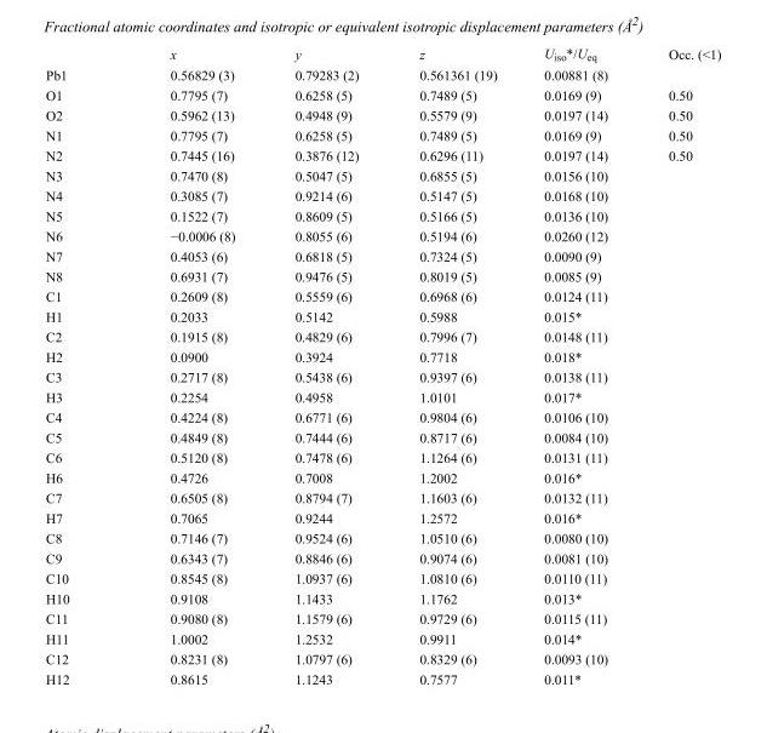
<table><thead><tr><td></td><td>x</td><td>y</td><td>z</td><td>U<sub>iso</sub>*/U<sub>eq</sub></td><td>Occ. (&lt;1)</td></tr></thead><tbody><tr><td>Pb1</td><td>0.56829 (3)</td><td>0.79283 (2)</td><td>0.561361 (19)</td><td>0.00881 (8)</td><td></td></tr><tr><td>O1</td><td>0.7795 (7)</td><td>0.6258 (5)</td><td>0.7489 (5)</td><td>0.0169 (9)</td><td>0.50</td></tr><tr><td>O2</td><td>0.5962 (13)</td><td>0.4948 (9)</td><td>0.5579 (9)</td><td>0.0197 (14)</td><td>0.50</td></tr><tr><td>N1</td><td>0.7795 (7)</td><td>0.6258 (5)</td><td>0.7489 (5)</td><td>0.0169 (9)</td><td>0.50</td></tr><tr><td>N2</td><td>0.7445 (16)</td><td>0.3876 (12)</td><td>0.6296 (11)</td><td>0.0197 (14)</td><td>0.50</td></tr><tr><td>N3</td><td>0.7470 (8)</td><td>0.5047 (5)</td><td>0.6855 (5)</td><td>0.0156 (10)</td><td></td></tr><tr><td>N4</td><td>0.3085 (7)</td><td>0.9214 (6)</td><td>0.5147 (5)</td><td>0.0168 (10)</td><td></td></tr><tr><td>N5</td><td>0.1522 (7)</td><td>0.8609 (5)</td><td>0.5166 (5)</td><td>0.0136 (10)</td><td></td></tr><tr><td>N6</td><td>−0.0006 (8)</td><td>0.8055 (6)</td><td>0.5194 (6)</td><td>0.0260 (12)</td><td></td></tr><tr><td>N7</td><td>0.4053 (6)</td><td>0.6818 (5)</td><td>0.7324 (5)</td><td>0.0090 (9)</td><td></td></tr><tr><td>N8</td><td>0.6931 (7)</td><td>0.9476 (5)</td><td>0.8019 (5)</td><td>0.0085 (9)</td><td></td></tr><tr><td>C1</td><td>0.2609 (8)</td><td>0.5559 (6)</td><td>0.6968 (6)</td><td>0.0124 (11)</td><td></td></tr><tr><td>H1</td><td>0.2033</td><td>0.5142</td><td>0.5988</td><td>0.015*</td><td></td></tr><tr><td>C2</td><td>0.1915 (8)</td><td>0.4829 (6)</td><td>0.7996 (7)</td><td>0.0148 (11)</td><td></td></tr><tr><td>H2</td><td>0.0900</td><td>0.3924</td><td>0.7718</td><td>0.018*</td><td></td></tr><tr><td>C3</td><td>0.2717 (8)</td><td>0.5438 (6)</td><td>0.9397 (6)</td><td>0.0138 (11)</td><td></td></tr><tr><td>H3</td><td>0.2254</td><td>0.4958</td><td>1.0101</td><td>0.017*</td><td></td></tr><tr><td>C4</td><td>0.4224 (8)</td><td>0.6771 (6)</td><td>0.9804 (6)</td><td>0.0106 (10)</td><td></td></tr><tr><td>C5</td><td>0.4849 (8)</td><td>0.7444 (6)</td><td>0.8717 (6)</td><td>0.0084 (10)</td><td></td></tr><tr><td>C6</td><td>0.5120 (8)</td><td>0.7478 (6)</td><td>1.1264 (6)</td><td>0.0131 (11)</td><td></td></tr><tr><td>H6</td><td>0.4726</td><td>0.7008</td><td>1.2002</td><td>0.016*</td><td></td></tr><tr><td>C7</td><td>0.6505 (8)</td><td>0.8794 (7)</td><td>1.1603 (6)</td><td>0.0132 (11)</td><td></td></tr><tr><td>H7</td><td>0.7065</td><td>0.9244</td><td>1.2572</td><td>0.016*</td><td></td></tr><tr><td>C8</td><td>0.7146 (7)</td><td>0.9524 (6)</td><td>1.0510 (6)</td><td>0.0080 (10)</td><td></td></tr><tr><td>C9</td><td>0.6343 (7)</td><td>0.8846 (6)</td><td>0.9074 (6)</td><td>0.0081 (10)</td><td></td></tr><tr><td>C10</td><td>0.8545 (8)</td><td>1.0937 (6)</td><td>1.0810 (6)</td><td>0.0110 (11)</td><td></td></tr><tr><td>H10</td><td>0.9108</td><td>1.1433</td><td>1.1762</td><td>0.013*</td><td></td></tr><tr><td>C11</td><td>0.9080 (8)</td><td>1.1579 (6)</td><td>0.9729 (6)</td><td>0.0115 (11)</td><td></td></tr><tr><td>H11</td><td>1.0002</td><td>1.2532</td><td>0.9911</td><td>0.014*</td><td></td></tr><tr><td>C12</td><td>0.8231 (8)</td><td>1.0797 (6)</td><td>0.8329 (6)</td><td>0.0093 (10)</td><td></td></tr><tr><td>H12</td><td>0.8615</td><td>1.1243</td><td>0.7577</td><td>0.011*</td><td></td></tr></tbody></table>